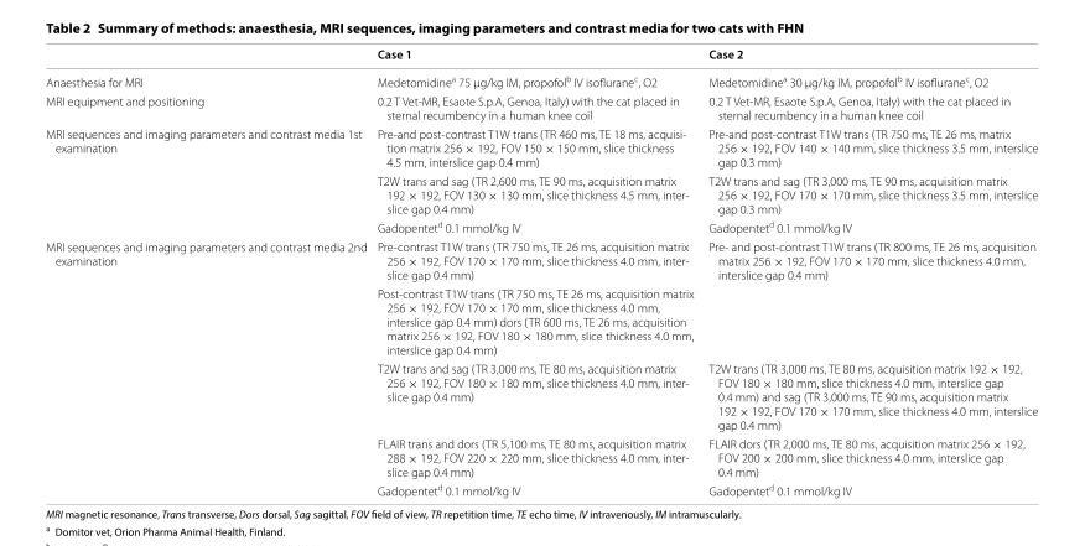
<table><thead><tr><td></td><td>Case 1</td><td>Case 2</td></tr></thead><tbody><tr><td>Anaesthesia for MRI</td><td>Medetomidine<sup>a</sup> 75 µg/kg IM, propofol<sup>b</sup> IV isoflurane<sup>c</sup>, O2</td><td>Medetomidine<sup>a</sup> 30 µg/kg IM, propofol<sup>b</sup> IV isoflurane<sup>c</sup>, O2</td></tr><tr><td>MRI equipment and positioning</td><td>0.2 T Vet-MR, Esaote S.p.A, Genoa, Italy) with the cat placed in sternal recumbency in a human knee coil</td><td>0.2 T Vet-MR, Esaote S.p.A, Genoa, Italy) with the cat placed in sternal recumbency in a human knee coil</td></tr><tr><td rowspan="3">MRI sequences and imaging parameters and contrast media 1st examination</td><td>Pre-and post-contrast T1W trans (TR 460 ms, TE 18 ms, acquisi- tion matrix 256 × 192, FOV 150 × 150 mm, slice thickness 4.5 mm, interslice gap 0.4 mm)</td><td>Pre-and post-contrast T1W trans (TR 750 ms, TE 26 ms, matrix 256 × 192, FOV 140 × 140 mm, slice thickness 3.5 mm, interslice gap 0.3 mm)</td></tr><tr><td>T2W trans and sag (TR 2,600 ms, TE 90 ms, acquisition matrix 192 × 192, FOV 130 × 130 mm, slice thickness 4.5 mm, inter- slice gap 0.4 mm)</td><td>T2W trans and sag (TR 3,000 ms, TE 90 ms, acquisition matrix 256 × 192, FOV 170 × 170 mm, slice thickness 3.5 mm, interslice gap 0.3 mm)</td></tr><tr><td>Gadopentet<sup>d</sup> 0.1 mmol/kg IV</td><td>Gadopentet<sup>d</sup> 0.1 mmol/kg IV</td></tr><tr><td rowspan="5">MRI sequences and imaging parameters and contrast media 2nd examination</td><td>Pre-contrast T1W trans (TR 750 ms, TE 26 ms, acquisition matrix 256 × 192, FOV 170 × 170 mm, slice thickness 4.0 mm, inter- slice gap 0.4 mm)</td><td rowspan="2">Pre- and post-contrast T1W trans (TR 800 ms, TE 26 ms, acquisition matrix 256 × 192, FOV 170 × 170 mm, slice thickness 4.0 mm, interslice gap 0.4 mm)</td></tr><tr><td>Post-contrast T1W trans (TR 750 ms, TE 26 ms, acquisition matrix 256 × 192, FOV 170 × 170 mm, slice thickness 4.0 mm, interslice gap 0.4 mm) dors (TR 600 ms, TE 26 ms, acquisition matrix 256 × 192, FOV 180 × 180 mm, slice thickness 4.0 mm, interslice gap 0.4 mm)</td></tr><tr><td>T2W trans and sag (TR 3,000 ms, TE 80 ms, acquisition matrix 256 × 192, FOV 180 × 180 mm, slice thickness 4.0 mm, inter- slice gap 0.4 mm)</td><td>T2W trans (TR 3,000 ms, TE 80 ms, acquisition matrix 192 × 192, FOV 180 × 180 mm, slice thickness 4.0 mm, interslice gap 0.4 mm) and sag (TR 3,000 ms, TE 90 ms, acquisition matrix 192 × 192, FOV 170 × 170 mm, slice thickness 4.0 mm, interslice gap 0.4 mm)</td></tr><tr><td>FLAIR trans and dors (TR 5,100 ms, TE 80 ms, acquisition matrix 288 × 192, FOV 220 × 220 mm, slice thickness 4.0 mm, inter- slice gap 0.4 mm)</td><td>FLAIR dors (TR 2,000 ms, TE 80 ms, acquisition matrix 256 × 192, FOV 200 × 200 mm, slice thickness 4.0 mm, interslice gap 0.4 mm)</td></tr><tr><td>Gadopentet<sup>d</sup> 0.1 mmol/kg IV</td><td>Gadopentet<sup>d</sup> 0.1 mmol/kg IV</td></tr></tbody></table>